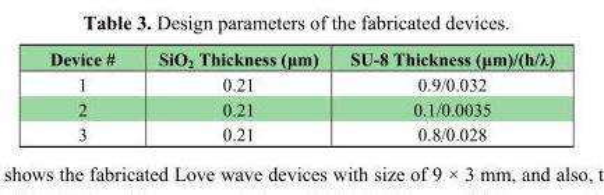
<table><thead><tr><td>Device #</td><td>SiO<sub>2</sub> Thickness (μm)</td><td>SU-8 Thickness (μm)/(h/λ)</td></tr></thead><tbody><tr><td>1</td><td>0.21</td><td>0.9/0.032</td></tr><tr><td>2</td><td>0.21</td><td>0.1/0.0035</td></tr><tr><td>3</td><td>0.21</td><td>0.8/0.028</td></tr></tbody></table>